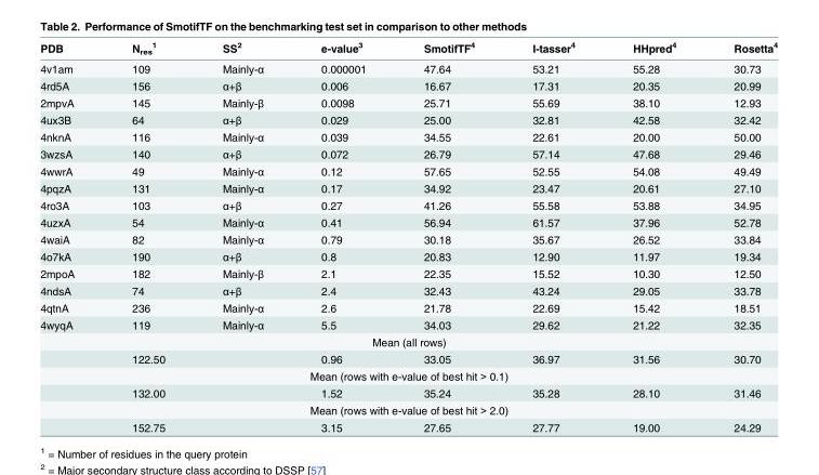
<table><thead><tr><td>PDB</td><td>N<sub>res</sub> <sup>1</sup></td><td>SS<sup>2</sup></td><td>e-value<sup>3</sup></td><td>SmotifTF<sup>4</sup></td><td>I-tasser<sup>4</sup></td><td>HHpred<sup>4</sup></td><td>Rosetta<sup>4</sup></td></tr></thead><tbody><tr><td>4v1am</td><td>109</td><td>Mainly-α</td><td>0.000001</td><td>47.64</td><td>53.21</td><td>55.28</td><td>30.73</td></tr><tr><td>4rd5A</td><td>156</td><td>α+β</td><td>0.006</td><td>16.67</td><td>17.31</td><td>20.35</td><td>20.99</td></tr><tr><td>2mpvA</td><td>145</td><td>Mainly-β</td><td>0.0098</td><td>25.71</td><td>55.69</td><td>38.10</td><td>12.93</td></tr><tr><td>4ux3B</td><td>64</td><td>α+β</td><td>0.029</td><td>25.00</td><td>32.81</td><td>42.58</td><td>32.42</td></tr><tr><td>4nknA</td><td>116</td><td>Mainly-α</td><td>0.039</td><td>34.55</td><td>22.61</td><td>20.00</td><td>50.00</td></tr><tr><td>3wzsA</td><td>140</td><td>α+β</td><td>0.072</td><td>26.79</td><td>57.14</td><td>47.68</td><td>29.46</td></tr><tr><td>4wwrA</td><td>49</td><td>Mainly-α</td><td>0.12</td><td>57.65</td><td>52.55</td><td>54.08</td><td>49.49</td></tr><tr><td>4pqzA</td><td>131</td><td>Mainly-α</td><td>0.17</td><td>34.92</td><td>23.47</td><td>20.61</td><td>27.10</td></tr><tr><td>4ro3A</td><td>103</td><td>α+β</td><td>0.27</td><td>41.26</td><td>55.58</td><td>53.88</td><td>34.95</td></tr><tr><td>4uzxA</td><td>54</td><td>Mainly-α</td><td>0.41</td><td>56.94</td><td>61.57</td><td>37.96</td><td>52.78</td></tr><tr><td>4waiA</td><td>82</td><td>Mainly-α</td><td>0.79</td><td>30.18</td><td>35.67</td><td>26.52</td><td>33.84</td></tr><tr><td>4o7kA</td><td>190</td><td>α+β</td><td>0.8</td><td>20.83</td><td>12.90</td><td>11.97</td><td>19.34</td></tr><tr><td>2mpoA</td><td>182</td><td>Mainly-β</td><td>2.1</td><td>22.35</td><td>15.52</td><td>10.30</td><td>12.50</td></tr><tr><td>4ndsA</td><td>74</td><td>α+β</td><td>2.4</td><td>32.43</td><td>43.24</td><td>29.05</td><td>33.78</td></tr><tr><td>4qtnA</td><td>236</td><td>Mainly-α</td><td>2.6</td><td>21.78</td><td>22.69</td><td>15.42</td><td>18.51</td></tr><tr><td>4wyqA</td><td>119</td><td>Mainly-α</td><td>5.5</td><td>34.03</td><td>29.62</td><td>21.22</td><td>32.35</td></tr><tr><td colspan="8">Mean (all rows)</td></tr><tr><td></td><td>122.50</td><td></td><td>0.96</td><td>33.05</td><td>36.97</td><td>31.56</td><td>30.70</td></tr><tr><td colspan="8">Mean (rows with e-value of best hit &gt; 0.1)</td></tr><tr><td></td><td>132.00</td><td></td><td>1.52</td><td>35.24</td><td>35.28</td><td>28.10</td><td>31.46</td></tr><tr><td colspan="8">Mean (rows with e-value of best hit &gt; 2.0)</td></tr><tr><td></td><td>152.75</td><td></td><td>3.15</td><td>27.65</td><td>27.77</td><td>19.00</td><td>24.29</td></tr></tbody></table>